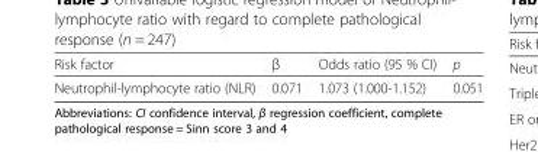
<table><thead><tr><td>Risk factor</td><td>β</td><td>Odds ratio (95 % CI)</td><td>p</td></tr></thead><tbody><tr><td>Neutrophil-lymphocyte ratio (NLR)</td><td>0.071</td><td>1.073 (1.000-1.152)</td><td>0.051</td></tr></tbody></table>